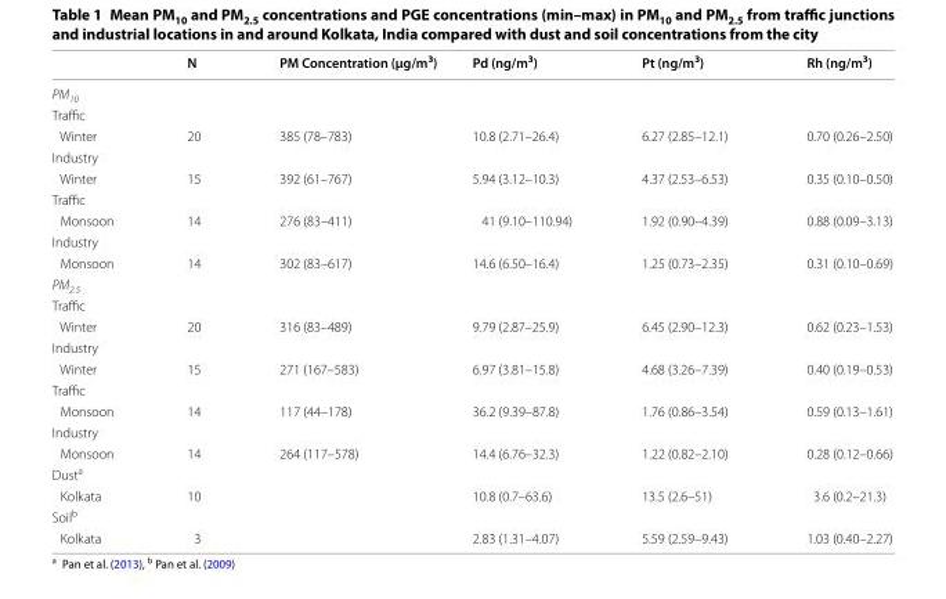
<table><thead><tr><td></td><td>N</td><td>PM Concentration (µg/m<sup>3</sup>)</td><td>Pd (ng/m<sup>3</sup>)</td><td>Pt (ng/m<sup>3</sup>)</td><td>Rh (ng/m<sup>3</sup>)</td></tr></thead><tbody><tr><td colspan="6">PM<sub>10</sub></td></tr><tr><td colspan="6">Traffic</td></tr><tr><td>Winter</td><td>20</td><td>385 (78–783)</td><td>10.8 (2.71–26.4)</td><td>6.27 (2.85–12.1)</td><td>0.70 (0.26–2.50)</td></tr><tr><td colspan="6">Industry</td></tr><tr><td>Winter</td><td>15</td><td>392 (61–767)</td><td>5.94 (3.12–10.3)</td><td>4.37 (2.53–6.53)</td><td>0.35 (0.10–0.50)</td></tr><tr><td colspan="6">Traffic</td></tr><tr><td>Monsoon</td><td>14</td><td>276 (83–411)</td><td>41 (9.10–110.94)</td><td>1.92 (0.90–4.39)</td><td>0.88 (0.09–3.13)</td></tr><tr><td colspan="6">Industry</td></tr><tr><td>Monsoon</td><td>14</td><td>302 (83–617)</td><td>14.6 (6.50–16.4)</td><td>1.25 (0.73–2.35)</td><td>0.31 (0.10–0.69)</td></tr><tr><td colspan="6">PM<sub>2.5</sub></td></tr><tr><td colspan="6">Traffic</td></tr><tr><td>Winter</td><td>20</td><td>316 (83–489)</td><td>9.79 (2.87–25.9)</td><td>6.45 (2.90–12.3)</td><td>0.62 (0.23–1.53)</td></tr><tr><td colspan="6">Industry</td></tr><tr><td>Winter</td><td>15</td><td>271 (167–583)</td><td>6.97 (3.81–15.8)</td><td>4.68 (3.26–7.39)</td><td>0.40 (0.19–0.53)</td></tr><tr><td colspan="6">Traffic</td></tr><tr><td>Monsoon</td><td>14</td><td>117 (44–178)</td><td>36.2 (9.39–87.8)</td><td>1.76 (0.86–3.54)</td><td>0.59 (0.13–1.61)</td></tr><tr><td colspan="6">Industry</td></tr><tr><td>Monsoon</td><td>14</td><td>264 (117–578)</td><td>14.4 (6.76–32.3)</td><td>1.22 (0.82–2.10)</td><td>0.28 (0.12–0.66)</td></tr><tr><td colspan="6">Dust<sup>a</sup></td></tr><tr><td>Kolkata</td><td>10</td><td></td><td>10.8 (0.7–63.6)</td><td>13.5 (2.6–51)</td><td>3.6 (0.2–21.3)</td></tr><tr><td colspan="6">Soil<sup>b</sup></td></tr><tr><td>Kolkata</td><td>3</td><td></td><td>2.83 (1.31–4.07)</td><td>5.59 (2.59–9.43)</td><td>1.03 (0.40–2.27)</td></tr></tbody></table>